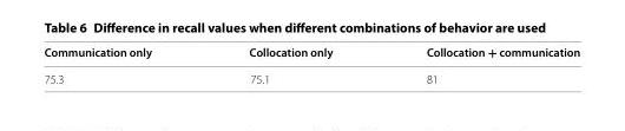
<table><thead><tr><td>Communication only</td><td>Collocation only</td><td>Collocation + communication</td></tr></thead><tbody><tr><td>75.3</td><td>75.1</td><td>81</td></tr></tbody></table>